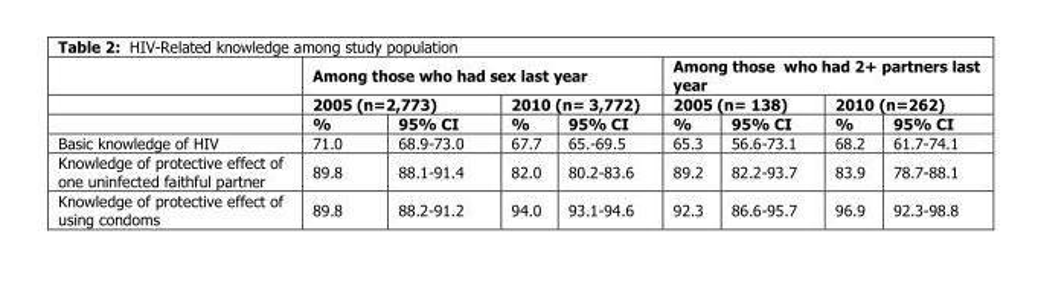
<table><thead><tr><td rowspan="3"></td><td colspan="4">Among those who had sex last year</td><td colspan="4">Among those who had 2+ partners last year</td></tr><tr><td colspan="2">2005 (n=2,773)</td><td colspan="2">2010 (n= 3,772)</td><td colspan="2">2005 (n= 138)</td><td colspan="2">2010 (n=262)</td></tr><tr><td>%</td><td>95% CI</td><td>%</td><td>95% CI</td><td>%</td><td>95% CI</td><td>%</td><td>95% CI</td></tr></thead><tbody><tr><td>Basic knowledge of HIV</td><td>71.0</td><td>68.9-73.0</td><td>67.7</td><td>65.-69.5</td><td>65.3</td><td>56.6-73.1</td><td>68.2</td><td>61.7-74.1</td></tr><tr><td>Knowledge of protective effect of one uninfected faithful partner</td><td>89.8</td><td>88.1-91.4</td><td>82.0</td><td>80.2-83.6</td><td>89.2</td><td>82.2-93.7</td><td>83.9</td><td>78.7-88.1</td></tr><tr><td>Knowledge of protective effect of using condoms</td><td>89.8</td><td>88.2-91.2</td><td>94.0</td><td>93.1-94.6</td><td>92.3</td><td>86.6-95.7</td><td>96.9</td><td>92.3-98.8</td></tr></tbody></table>